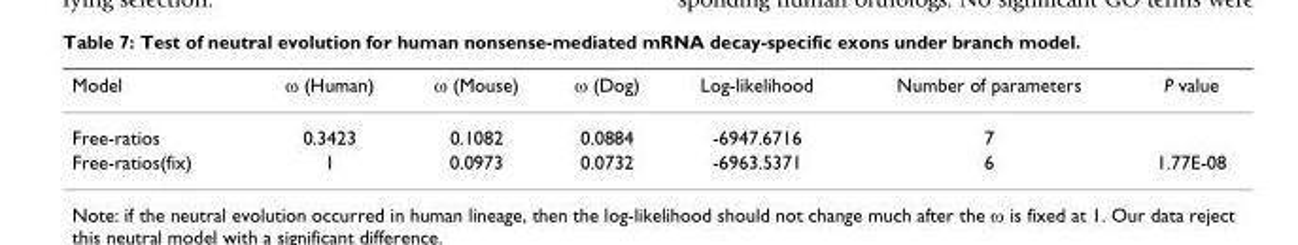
<table><thead><tr><td>Model</td><td>ω (Human)</td><td>ω (Mouse)</td><td>ω (Dog)</td><td>Log-likelihood</td><td>Number of parameters</td><td>P value</td></tr></thead><tbody><tr><td>Free-ratios</td><td>0.3423</td><td>0.1082</td><td>0.0884</td><td>-6947.6716</td><td>7</td><td></td></tr><tr><td>Free-ratios(fix)</td><td>1</td><td>0.0973</td><td>0.0732</td><td>-6963.5371</td><td>6</td><td>1.77E-08</td></tr></tbody></table>